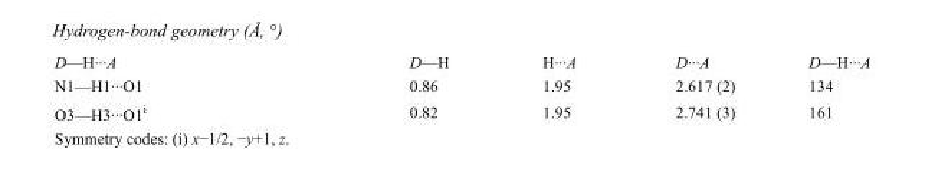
<table><tbody><tr><td>D—H···A</td><td>D—H</td><td>H···A</td><td>D···A</td><td>D—H···A</td></tr><tr><td>N1—H1···O1</td><td>0.86</td><td>1.95</td><td>2.617 (2)</td><td>134</td></tr><tr><td>O3—H3···O1<sup>i</sup></td><td>0.82</td><td>1.95</td><td>2.741 (3)</td><td>161</td></tr></tbody></table>